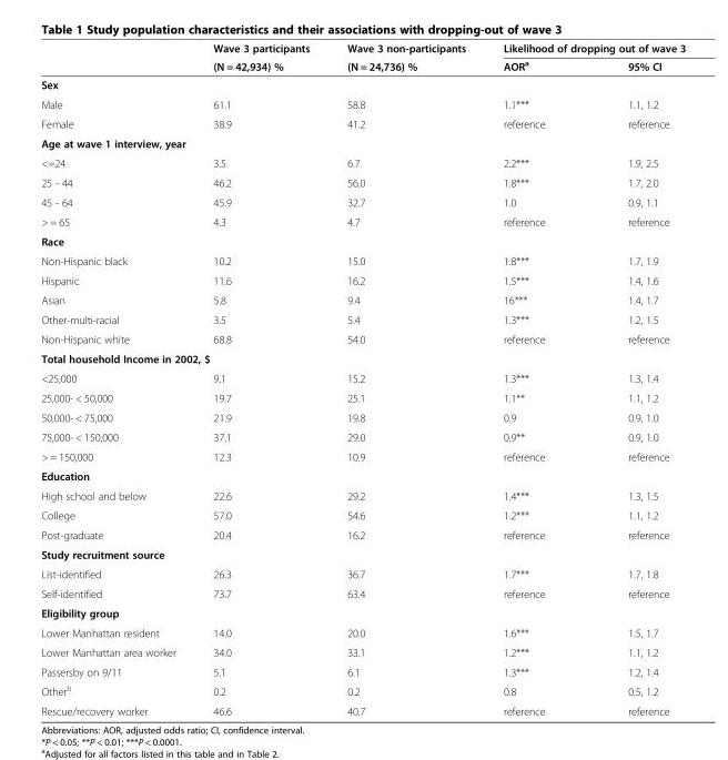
<table><thead><tr><td rowspan="2"></td><td rowspan="2">Wave 3 participants (N = 42,934) %</td><td rowspan="2">Wave 3 non-participants (N = 24,736) %</td><td colspan="2">Likelihood of dropping out of wave 3</td></tr><tr><td>AOR<sup>a</sup></td><td>95% CI</td></tr></thead><tbody><tr><td colspan="5">Sex</td></tr><tr><td>Male</td><td>61.1</td><td>58.8</td><td>1.1***</td><td>1.1, 1.2</td></tr><tr><td>Female</td><td>38.9</td><td>41.2</td><td>reference</td><td>reference</td></tr><tr><td colspan="5">Age at wave 1 interview, year</td></tr><tr><td>&lt;=24</td><td>3.5</td><td>6.7</td><td>2.2***</td><td>1.9, 2.5</td></tr><tr><td>25 - 44</td><td>46.2</td><td>56.0</td><td>1.8***</td><td>1.7, 2.0</td></tr><tr><td>45 - 64</td><td>45.9</td><td>32.7</td><td>1.0</td><td>0.9, 1.1</td></tr><tr><td>&gt; = 65</td><td>4.3</td><td>4.7</td><td>reference</td><td>reference</td></tr><tr><td colspan="5">Race</td></tr><tr><td>Non-Hispanic black</td><td>10.2</td><td>15.0</td><td>1.8***</td><td>1.7, 1.9</td></tr><tr><td>Hispanic</td><td>11.6</td><td>16.2</td><td>1.5***</td><td>1.4, 1.6</td></tr><tr><td>Asian</td><td>5.8</td><td>9.4</td><td>16***</td><td>1.4, 1.7</td></tr><tr><td>Other-multi-racial</td><td>3.5</td><td>5.4</td><td>1.3***</td><td>1.2, 1.5</td></tr><tr><td>Non-Hispanic white</td><td>68.8</td><td>54.0</td><td>reference</td><td>reference</td></tr><tr><td colspan="5">Total household Income in 2002, $</td></tr><tr><td>&lt;25,000</td><td>9.1</td><td>15.2</td><td>1.3***</td><td>1.3, 1.4</td></tr><tr><td>25,000- &lt; 50,000</td><td>19.7</td><td>25.1</td><td>1.1**</td><td>1.1, 1.2</td></tr><tr><td>50,000- &lt; 75,000</td><td>21.9</td><td>19.8</td><td>0.9</td><td>0.9, 1.0</td></tr><tr><td>75,000- &lt; 150,000</td><td>37.1</td><td>29.0</td><td>0.9**</td><td>0.9, 1.0</td></tr><tr><td>&gt; = 150,000</td><td>12.3</td><td>10.9</td><td>reference</td><td>reference</td></tr><tr><td colspan="5">Education</td></tr><tr><td>High school and below</td><td>22.6</td><td>29.2</td><td>1.4***</td><td>1.3, 1.5</td></tr><tr><td>College</td><td>57.0</td><td>54.6</td><td>1.2***</td><td>1.1, 1.2</td></tr><tr><td>Post-graduate</td><td>20.4</td><td>16.2</td><td>reference</td><td>reference</td></tr><tr><td colspan="5">Study recruitment source</td></tr><tr><td>List-identified</td><td>26.3</td><td>36.7</td><td>1.7***</td><td>1.7, 1.8</td></tr><tr><td>Self-identified</td><td>73.7</td><td>63.4</td><td>reference</td><td>reference</td></tr><tr><td colspan="5">Eligibility group</td></tr><tr><td>Lower Manhattan resident</td><td>14.0</td><td>20.0</td><td>1.6***</td><td>1.5, 1.7</td></tr><tr><td>Lower Manhattan area worker</td><td>34.0</td><td>33.1</td><td>1.2***</td><td>1.1, 1.2</td></tr><tr><td>Passersby on 9/11</td><td>5.1</td><td>6.1</td><td>1.3***</td><td>1.2, 1.4</td></tr><tr><td>Other<sup>b</sup></td><td>0.2</td><td>0.2</td><td>0.8</td><td>0.5, 1.2</td></tr><tr><td>Rescue/recovery worker</td><td>46.6</td><td>40.7</td><td>reference</td><td>reference</td></tr></tbody></table>